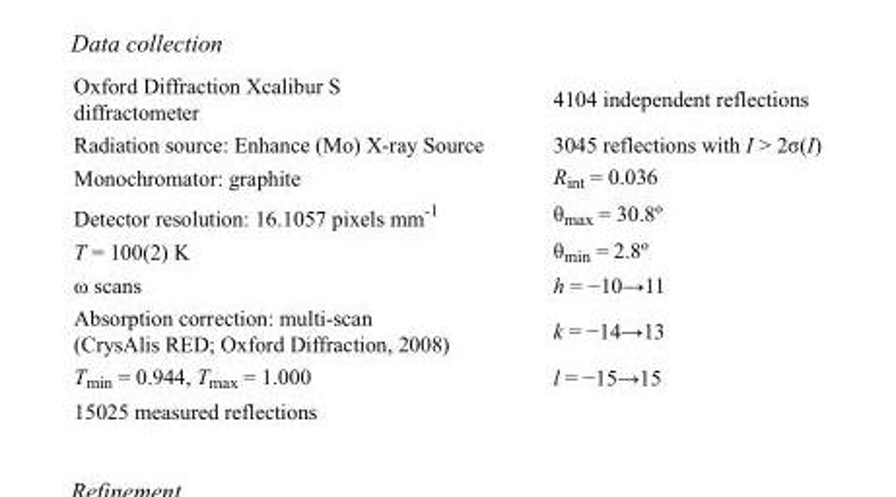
<table><tbody><tr><td>Oxford Diffraction Xcalibur S diffractometer</td><td>4104 independent reflections</td></tr><tr><td>Radiation source: Enhance (Mo) X-ray Source</td><td>3045 reflections with I &gt; 2σ(I)</td></tr><tr><td>Monochromator: graphite</td><td>R<sub>int</sub> = 0.036</td></tr><tr><td>Detector resolution: 16.1057 pixels mm<sup>-1</sup></td><td>θ<sub>max</sub> = 30.8º</td></tr><tr><td>T = 100(2) K</td><td>θ<sub>min</sub> = 2.8º</td></tr><tr><td>ω scans</td><td>h = −10→11</td></tr><tr><td>Absorption correction: multi-scan (CrysAlis RED; Oxford Diffraction, 2008)</td><td>k = −14→13</td></tr><tr><td>T<sub>min</sub> = 0.944, T<sub>max</sub> = 1.000</td><td>l = −15→15</td></tr><tr><td>15025 measured reflections</td><td></td></tr></tbody></table>